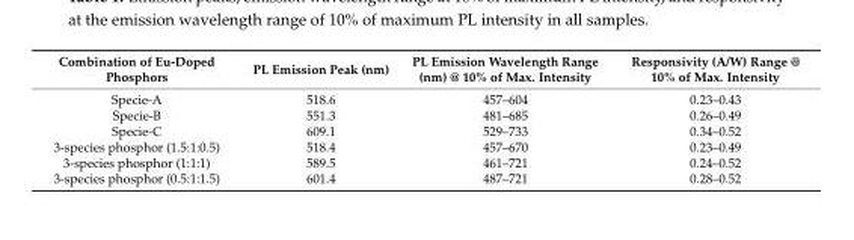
<table><thead><tr><td>Combination of Eu-Doped Phosphors</td><td>PL Emission Peak (nm)</td><td>PL Emission Wavelength Range (nm) @ 10% of Max. Intensity</td><td>Responsivity (A/W) Range @ 10% of Max. Intensity</td></tr></thead><tbody><tr><td>Specie-A</td><td>518.6</td><td>457–604</td><td>0.23–0.43</td></tr><tr><td>Specie-B</td><td>551.3</td><td>481–685</td><td>0.26–0.49</td></tr><tr><td>Specie-C</td><td>609.1</td><td>529–733</td><td>0.34–0.52</td></tr><tr><td>3-species phosphor (1.5:1:0.5)</td><td>518.4</td><td>457–670</td><td>0.23–0.49</td></tr><tr><td>3-species phosphor (1:1:1)</td><td>589.5</td><td>461–721</td><td>0.24–0.52</td></tr><tr><td>3-species phosphor (0.5:1:1.5)</td><td>601.4</td><td>487–721</td><td>0.28–0.52</td></tr></tbody></table>